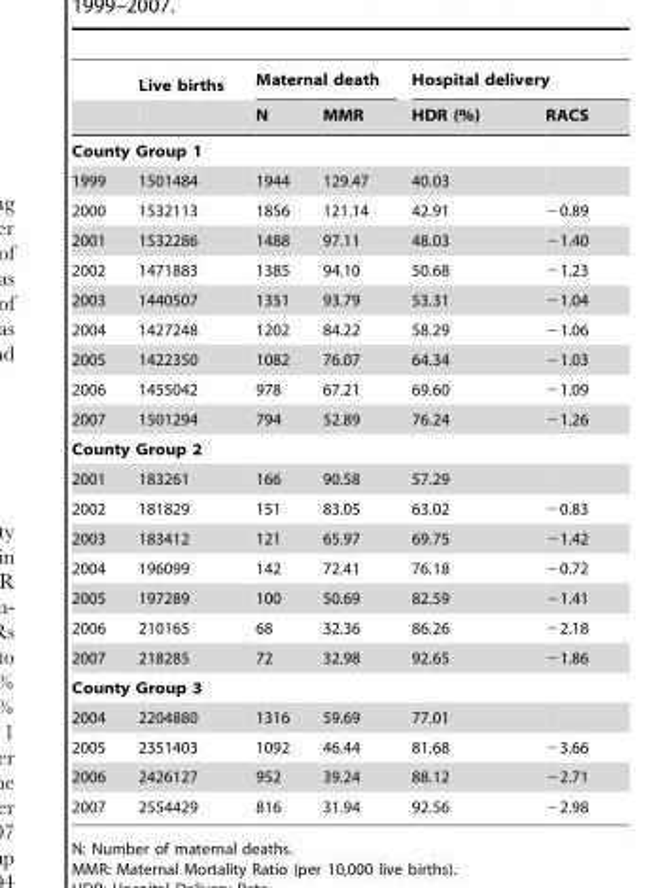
<table><thead><tr><td rowspan="2"></td><td rowspan="2">Live births</td><td colspan="2">Maternal death</td><td colspan="2">Hospital delivery</td></tr><tr><td>N</td><td>MMR</td><td>HDR (%)</td><td>RACS</td></tr></thead><tbody><tr><td colspan="6">County Group 1</td></tr><tr><td>1999</td><td>1501484</td><td>1944</td><td>129.47</td><td>40.03</td><td></td></tr><tr><td>2000</td><td>1532113</td><td>1856</td><td>121.14</td><td>42.91</td><td>−0.89</td></tr><tr><td>2001</td><td>1532286</td><td>1488</td><td>97.11</td><td>48.03</td><td>−1.40</td></tr><tr><td>2002</td><td>1471883</td><td>1385</td><td>94.10</td><td>50.68</td><td>−1.23</td></tr><tr><td>2003</td><td>1440507</td><td>1351</td><td>93.79</td><td>53.31</td><td>−1.04</td></tr><tr><td>2004</td><td>1427248</td><td>1202</td><td>84.22</td><td>58.29</td><td>−1.06</td></tr><tr><td>2005</td><td>1422350</td><td>1082</td><td>76.07</td><td>64.34</td><td>−1.03</td></tr><tr><td>2006</td><td>1455042</td><td>978</td><td>67.21</td><td>69.60</td><td>−1.09</td></tr><tr><td>2007</td><td>1501294</td><td>794</td><td>52.89</td><td>76.24</td><td>−1.26</td></tr><tr><td colspan="6">County Group 2</td></tr><tr><td>2001</td><td>183261</td><td>166</td><td>90.58</td><td>57.29</td><td></td></tr><tr><td>2002</td><td>181829</td><td>151</td><td>83.05</td><td>63.02</td><td>−0.83</td></tr><tr><td>2003</td><td>183412</td><td>121</td><td>65.97</td><td>69.75</td><td>−1.42</td></tr><tr><td>2004</td><td>196099</td><td>142</td><td>72.41</td><td>76.18</td><td>−0.72</td></tr><tr><td>2005</td><td>197289</td><td>100</td><td>50.69</td><td>82.59</td><td>−1.41</td></tr><tr><td>2006</td><td>210165</td><td>68</td><td>32.36</td><td>86.26</td><td>−2.18</td></tr><tr><td>2007</td><td>218285</td><td>72</td><td>32.98</td><td>92.65</td><td>−1.86</td></tr><tr><td colspan="6">County Group 3</td></tr><tr><td>2004</td><td>2204880</td><td>1316</td><td>59.69</td><td>77.01</td><td></td></tr><tr><td>2005</td><td>2351403</td><td>1092</td><td>46.44</td><td>81.68</td><td>−3.66</td></tr><tr><td>2006</td><td>2426127</td><td>952</td><td>39.24</td><td>88.12</td><td>−2.71</td></tr><tr><td>2007</td><td>2554429</td><td>816</td><td>31.94</td><td>92.56</td><td>−2.98</td></tr></tbody></table>